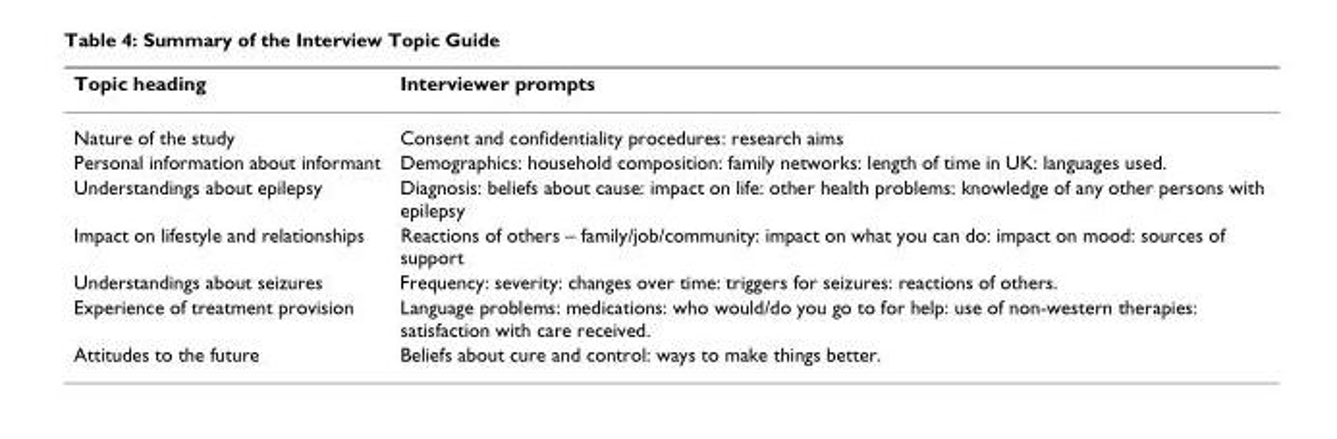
<table><thead><tr><td>Topic heading</td><td>Interviewer prompts</td></tr></thead><tbody><tr><td>Nature of the study</td><td>Consent and confidentiality procedures: research aims</td></tr><tr><td>Personal information about informant</td><td>Demographics: household composition: family networks: length of time in UK: languages used.</td></tr><tr><td>Understandings about epilepsy</td><td>Diagnosis: beliefs about cause: impact on life: other health problems: knowledge of any other persons with epilepsy</td></tr><tr><td>Impact on lifestyle and relationships</td><td>Reactions of others – family/job/community: impact on what you can do: impact on mood: sources of support</td></tr><tr><td>Understandings about seizures</td><td>Frequency: severity: changes over time: triggers for seizures: reactions of others.</td></tr><tr><td>Experience of treatment provision</td><td>Language problems: medications: who would/do you go to for help: use of non-western therapies: satisfaction with care received.</td></tr><tr><td>Attitudes to the future</td><td>Beliefs about cure and control: ways to make things better.</td></tr></tbody></table>